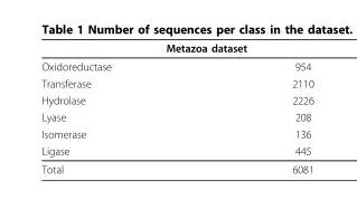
<table><thead><tr><td colspan="2">Metazoa dataset</td></tr><tr><td>Oxidoreductase</td><td>954</td></tr></thead><tbody><tr><td>Transferase</td><td>2110</td></tr><tr><td>Hydrolase</td><td>2226</td></tr><tr><td>Lyase</td><td>208</td></tr><tr><td>Isomerase</td><td>136</td></tr><tr><td>Ligase</td><td>445</td></tr><tr><td>Total</td><td>6081</td></tr></tbody></table>